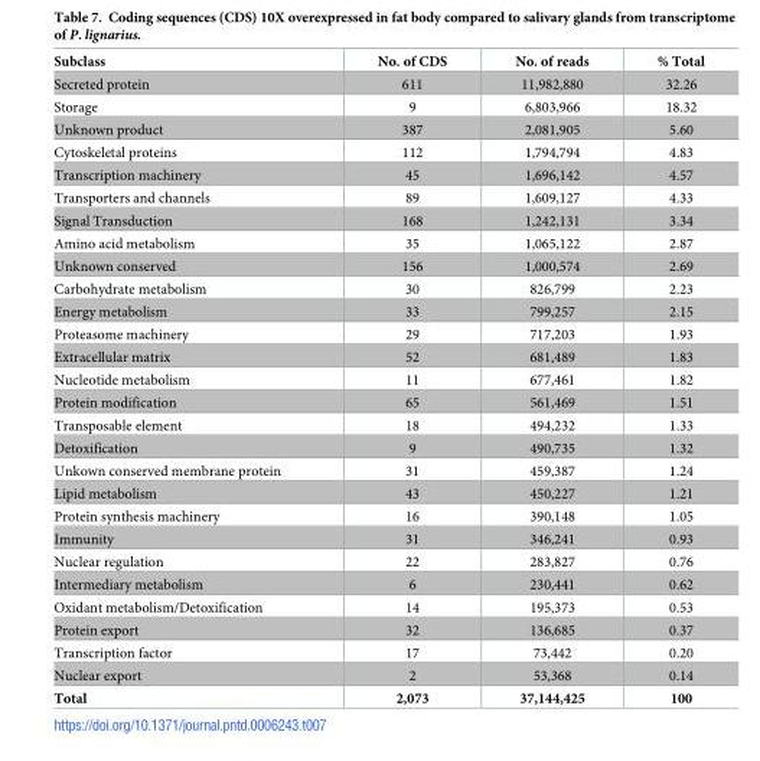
<table><thead><tr><td>Subclass</td><td>No. of CDS</td><td>No. of reads</td><td>% Total</td></tr></thead><tbody><tr><td>Secreted protein</td><td>611</td><td>11,982,880</td><td>32.26</td></tr><tr><td>Storage</td><td>9</td><td>6,803,966</td><td>18.32</td></tr><tr><td>Unknown product</td><td>387</td><td>2,081,905</td><td>5.60</td></tr><tr><td>Cytoskeletal proteins</td><td>112</td><td>1,794,794</td><td>4.83</td></tr><tr><td>Transcription machinery</td><td>45</td><td>1,696,142</td><td>4.57</td></tr><tr><td>Transporters and channels</td><td>89</td><td>1,609,127</td><td>4.33</td></tr><tr><td>Signal Transduction</td><td>168</td><td>1,242,131</td><td>3.34</td></tr><tr><td>Amino acid metabolism</td><td>35</td><td>1,065,122</td><td>2.87</td></tr><tr><td>Unknown conserved</td><td>156</td><td>1,000,574</td><td>2.69</td></tr><tr><td>Carbohydrate metabolism</td><td>30</td><td>826,799</td><td>2.23</td></tr><tr><td>Energy metabolism</td><td>33</td><td>799,257</td><td>2.15</td></tr><tr><td>Proteasome machinery</td><td>29</td><td>717,203</td><td>1.93</td></tr><tr><td>Extracellular matrix</td><td>52</td><td>681,489</td><td>1.83</td></tr><tr><td>Nucleotide metabolism</td><td>11</td><td>677,461</td><td>1.82</td></tr><tr><td>Protein modification</td><td>65</td><td>561,469</td><td>1.51</td></tr><tr><td>Transposable element</td><td>18</td><td>494,232</td><td>1.33</td></tr><tr><td>Detoxification</td><td>9</td><td>490,735</td><td>1.32</td></tr><tr><td>Unkown conserved membrane protein</td><td>31</td><td>459,387</td><td>1.24</td></tr><tr><td>Lipid metabolism</td><td>43</td><td>450,227</td><td>1.21</td></tr><tr><td>Protein synthesis machinery</td><td>16</td><td>390,148</td><td>1.05</td></tr><tr><td>Immunity</td><td>31</td><td>346,241</td><td>0.93</td></tr><tr><td>Nuclear regulation</td><td>22</td><td>283,827</td><td>0.76</td></tr><tr><td>Intermediary metabolism</td><td>6</td><td>230,441</td><td>0.62</td></tr><tr><td>Oxidant metabolism/Detoxification</td><td>14</td><td>195,373</td><td>0.53</td></tr><tr><td>Protein export</td><td>32</td><td>136,685</td><td>0.37</td></tr><tr><td>Transcription factor</td><td>17</td><td>73,442</td><td>0.20</td></tr><tr><td>Nuclear export</td><td>2</td><td>53,368</td><td>0.14</td></tr><tr><td>Total</td><td>2,073</td><td>37,144,425</td><td>100</td></tr></tbody></table>